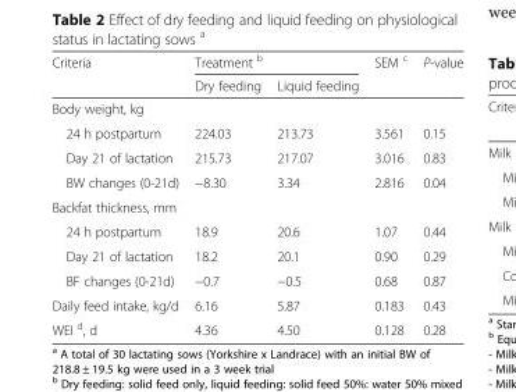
<table><thead><tr><td rowspan="2">Criteria</td><td colspan="2">Treatment <sup>b</sup></td><td rowspan="2">SEM <sup>c</sup></td><td rowspan="2">P-value</td></tr><tr><td>Dry feeding</td><td>Liquid feeding</td></tr></thead><tbody><tr><td colspan="5">Body weight, kg</td></tr><tr><td>24 h postpartum</td><td>224.03</td><td>213.73</td><td>3.561</td><td>0.15</td></tr><tr><td>Day 21 of lactation</td><td>215.73</td><td>217.07</td><td>3.016</td><td>0.83</td></tr><tr><td>BW changes (0-21d)</td><td>−8.30</td><td>3.34</td><td>2.816</td><td>0.04</td></tr><tr><td colspan="5">Backfat thickness, mm</td></tr><tr><td>24 h postpartum</td><td>18.9</td><td>20.6</td><td>1.07</td><td>0.44</td></tr><tr><td>Day 21 of lactation</td><td>18.2</td><td>20.1</td><td>0.90</td><td>0.29</td></tr><tr><td>BF changes (0-21d)</td><td>−0.7</td><td>−0.5</td><td>0.68</td><td>0.87</td></tr><tr><td>Daily feed intake, kg/d</td><td>6.16</td><td>5.87</td><td>0.183</td><td>0.43</td></tr><tr><td>WEI <sup>d</sup>, d</td><td>4.36</td><td>4.50</td><td>0.128</td><td>0.28</td></tr></tbody></table>